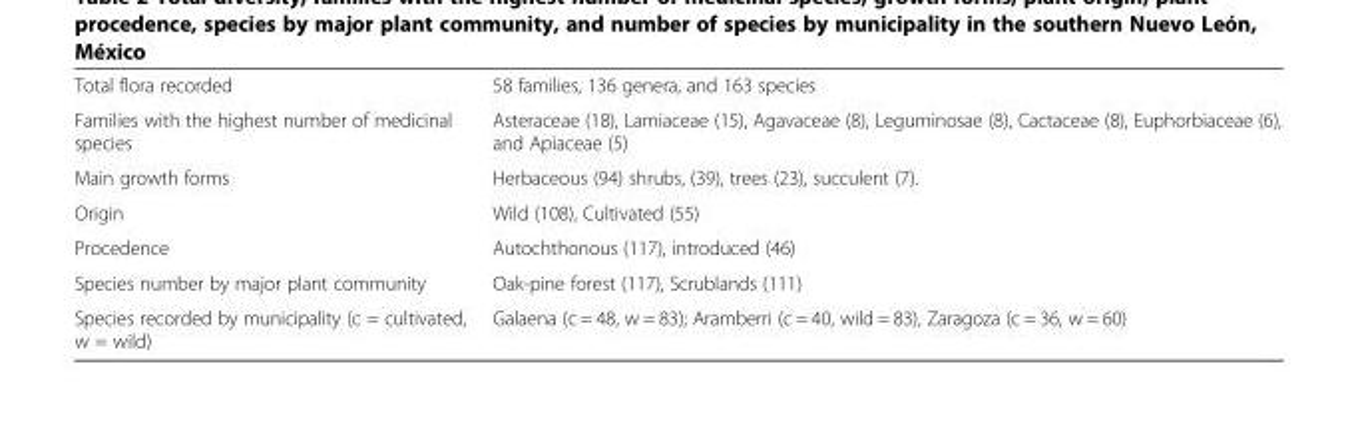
<table><tbody><tr><td>Total flora recorded</td><td>58 families, 136 genera, and 163 species</td></tr><tr><td>Families with the highest number of medicinal species</td><td>Asteraceae (18), Lamiaceae (15), Agavaceae (8), Leguminosae (8), Cactaceae (8), Euphorbiaceae (6), and Apiaceae (5)</td></tr><tr><td>Main growth forms</td><td>Herbaceous (94) shrubs, (39), trees (23), succulent (7).</td></tr><tr><td>Origin</td><td>Wild (108), Cultivated (55)</td></tr><tr><td>Procedence</td><td>Autochthonous (117), introduced (46)</td></tr><tr><td>Species number by major plant community</td><td>Oak-pine forest (117), Scrublands (111)</td></tr><tr><td>Species recorded by municipality (c = cultivated, w = wild)</td><td>Galaena (c = 48, w = 83); Aramberri (c = 40, wild = 83), Zaragoza (c = 36, w = 60)</td></tr></tbody></table>